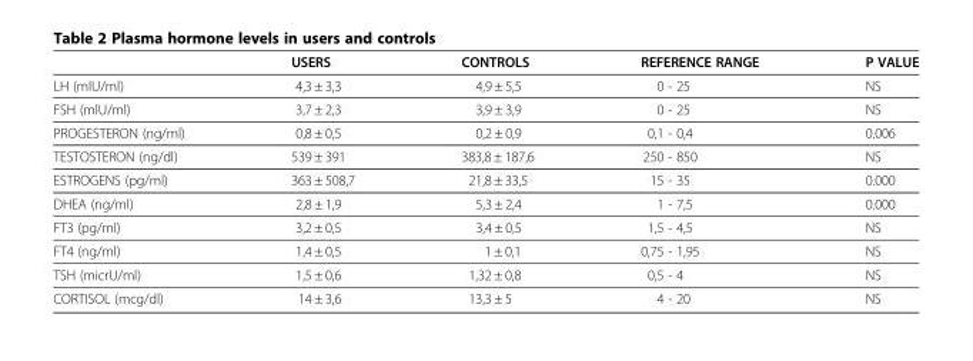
<table><thead><tr><td></td><td>USERS</td><td>CONTROLS</td><td>REFERENCE RANGE</td><td>P VALUE</td></tr></thead><tbody><tr><td>LH (mlU/ml)</td><td>4,3 ± 3,3</td><td>4,9 ± 5,5</td><td>0 - 25</td><td>NS</td></tr><tr><td>FSH (mlU/ml)</td><td>3,7 ± 2,3</td><td>3,9 ± 3,9</td><td>0 - 25</td><td>NS</td></tr><tr><td>PROGESTERON (ng/ml)</td><td>0,8 ± 0,5</td><td>0,2 ± 0,9</td><td>0,1 - 0,4</td><td>0.006</td></tr><tr><td>TESTOSTERON (ng/dl)</td><td>539 ± 391</td><td>383,8 ± 187,6</td><td>250 - 850</td><td>NS</td></tr><tr><td>ESTROGENS (pg/ml)</td><td>363 ± 508,7</td><td>21,8 ± 33,5</td><td>15 - 35</td><td>0.000</td></tr><tr><td>DHEA (ng/ml)</td><td>2,8 ± 1,9</td><td>5,3 ± 2,4</td><td>1 - 7,5</td><td>0.000</td></tr><tr><td>FT3 (pg/ml)</td><td>3,2 ± 0,5</td><td>3,4 ± 0,5</td><td>1,5 - 4,5</td><td>NS</td></tr><tr><td>FT4 (ng/ml)</td><td>1,4 ± 0,5</td><td>1 ± 0,1</td><td>0,75 - 1,95</td><td>NS</td></tr><tr><td>TSH (micrU/ml)</td><td>1,5 ± 0,6</td><td>1,32 ± 0,8</td><td>0,5 - 4</td><td>NS</td></tr><tr><td>CORTISOL (mcg/dl)</td><td>14 ± 3,6</td><td>13,3 ± 5</td><td>4 - 20</td><td>NS</td></tr></tbody></table>